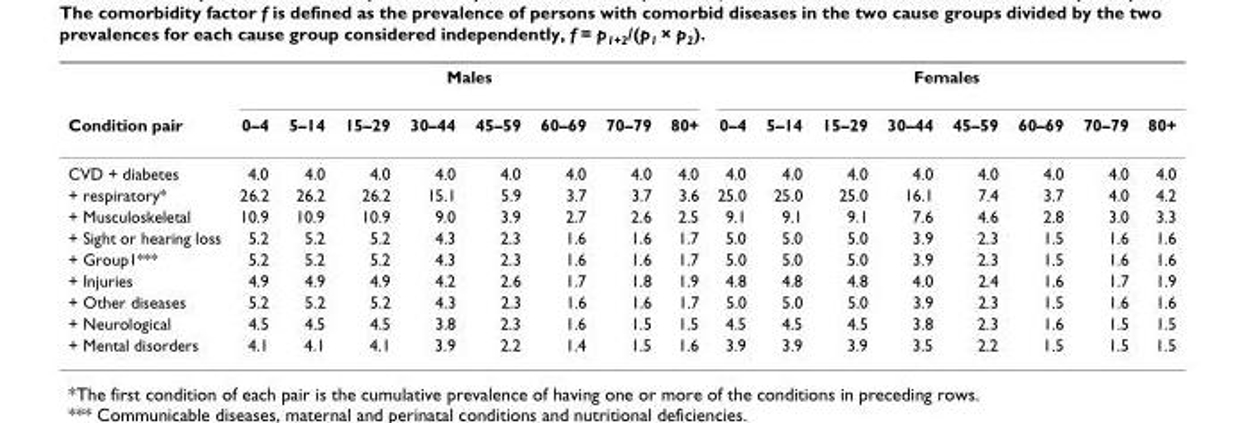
<table><thead><tr><td rowspan="2">Condition pair</td><td colspan="8">Males</td><td colspan="8">Females</td></tr><tr><td>0–4</td><td>5–14</td><td>15–29</td><td>30–44</td><td>45–59</td><td>60–69</td><td>70–79</td><td>80+</td><td>0–4</td><td>5–14</td><td>15–29</td><td>30–44</td><td>45–59</td><td>60–69</td><td>70–79</td><td>80+</td></tr></thead><tbody><tr><td>CVD + diabetes</td><td>4.0</td><td>4.0</td><td>4.0</td><td>4.0</td><td>4.0</td><td>4.0</td><td>4.0</td><td>4.0</td><td>4.0</td><td>4.0</td><td>4.0</td><td>4.0</td><td>4.0</td><td>4.0</td><td>4.0</td><td>4.0</td></tr><tr><td>+ respiratory*</td><td>26.2</td><td>26.2</td><td>26.2</td><td>15.1</td><td>5.9</td><td>3.7</td><td>3.7</td><td>3.6</td><td>25.0</td><td>25.0</td><td>25.0</td><td>16.1</td><td>7.4</td><td>3.7</td><td>4.0</td><td>4.2</td></tr><tr><td>+ Musculoskeletal</td><td>10.9</td><td>10.9</td><td>10.9</td><td>9.0</td><td>3.9</td><td>2.7</td><td>2.6</td><td>2.5</td><td>9.1</td><td>9.1</td><td>9.1</td><td>7.6</td><td>4.6</td><td>2.8</td><td>3.0</td><td>3.3</td></tr><tr><td>+ Sight or hearing loss</td><td>5.2</td><td>5.2</td><td>5.2</td><td>4.3</td><td>2.3</td><td>1.6</td><td>1.6</td><td>1.7</td><td>5.0</td><td>5.0</td><td>5.0</td><td>3.9</td><td>2.3</td><td>1.5</td><td>1.6</td><td>1.6</td></tr><tr><td>+ Group1***</td><td>5.2</td><td>5.2</td><td>5.2</td><td>4.3</td><td>2.3</td><td>1.6</td><td>1.6</td><td>1.7</td><td>5.0</td><td>5.0</td><td>5.0</td><td>3.9</td><td>2.3</td><td>1.5</td><td>1.6</td><td>1.6</td></tr><tr><td>+ Injuries</td><td>4.9</td><td>4.9</td><td>4.9</td><td>4.2</td><td>2.6</td><td>1.7</td><td>1.8</td><td>1.9</td><td>4.8</td><td>4.8</td><td>4.8</td><td>4.0</td><td>2.4</td><td>1.6</td><td>1.7</td><td>1.9</td></tr><tr><td>+ Other diseases</td><td>5.2</td><td>5.2</td><td>5.2</td><td>4.3</td><td>2.3</td><td>1.6</td><td>1.6</td><td>1.7</td><td>5.0</td><td>5.0</td><td>5.0</td><td>3.9</td><td>2.3</td><td>1.5</td><td>1.6</td><td>1.6</td></tr><tr><td>+ Neurological</td><td>4.5</td><td>4.5</td><td>4.5</td><td>3.8</td><td>2.3</td><td>1.6</td><td>1.5</td><td>1.5</td><td>4.5</td><td>4.5</td><td>4.5</td><td>3.8</td><td>2.3</td><td>1.6</td><td>1.5</td><td>1.5</td></tr><tr><td>+ Mental disorders</td><td>4.1</td><td>4.1</td><td>4.1</td><td>3.9</td><td>2.2</td><td>1.4</td><td>1.5</td><td>1.6</td><td>3.9</td><td>3.9</td><td>3.9</td><td>3.5</td><td>2.2</td><td>1.5</td><td>1.5</td><td>1.5</td></tr></tbody></table>